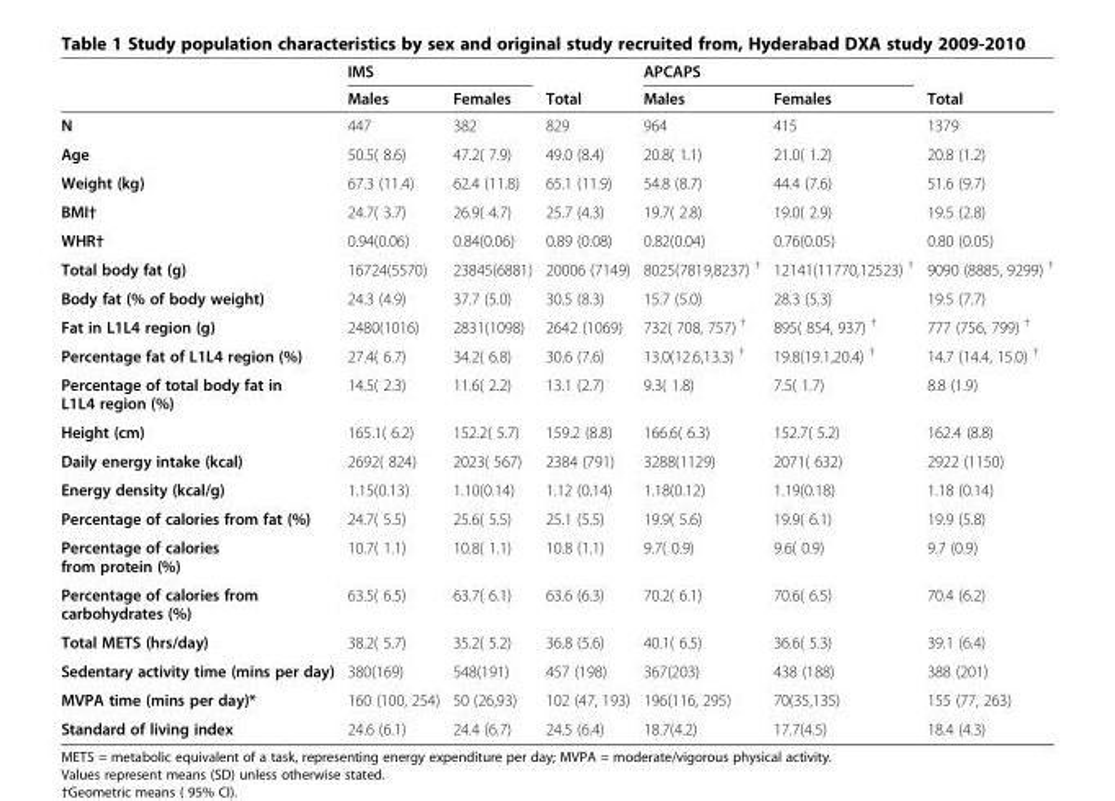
<table><thead><tr><td rowspan="2"></td><td colspan="2">IMS</td><td rowspan="2">Total</td><td colspan="2">APCAPS</td><td rowspan="2">Total</td></tr><tr><td>Males</td><td>Females</td><td>Males</td><td>Females</td></tr></thead><tbody><tr><td>N</td><td>447</td><td>382</td><td>829</td><td>964</td><td>415</td><td>1379</td></tr><tr><td>Age</td><td>50.5( 8.6)</td><td>47.2( 7.9)</td><td>49.0 (8.4)</td><td>20.8( 1.1)</td><td>21.0( 1.2)</td><td>20.8 (1.2)</td></tr><tr><td>Weight (kg)</td><td>67.3 (11.4)</td><td>62.4 (11.8)</td><td>65.1 (11.9)</td><td>54.8 (8.7)</td><td>44.4 (7.6)</td><td>51.6 (9.7)</td></tr><tr><td>BMI†</td><td>24.7( 3.7)</td><td>26.9( 4.7)</td><td>25.7 (4.3)</td><td>19.7( 2.8)</td><td>19.0( 2.9)</td><td>19.5 (2.8)</td></tr><tr><td>WHR†</td><td>0.94(0.06)</td><td>0.84(0.06)</td><td>0.89 (0.08)</td><td>0.82(0.04)</td><td>0.76(0.05)</td><td>0.80 (0.05)</td></tr><tr><td>Total body fat (g)</td><td>16724(5570)</td><td>23845(6881)</td><td>20006 (7149)</td><td>8025(7819,8237) <sup>†</sup></td><td>12141(11770,12523) <sup>†</sup></td><td>9090 (8885, 9299) <sup>†</sup></td></tr><tr><td>Body fat (% of body weight)</td><td>24.3 (4.9)</td><td>37.7 (5.0)</td><td>30.5 (8.3)</td><td>15.7 (5.0)</td><td>28.3 (5.3)</td><td>19.5 (7.7)</td></tr><tr><td>Fat in L1L4 region (g)</td><td>2480(1016)</td><td>2831(1098)</td><td>2642 (1069)</td><td>732( 708, 757) <sup>†</sup></td><td>895( 854, 937) <sup>†</sup></td><td>777 (756, 799) <sup>†</sup></td></tr><tr><td>Percentage fat of L1L4 region (%)</td><td>27.4( 6.7)</td><td>34.2( 6.8)</td><td>30.6 (7.6)</td><td>13.0(12.6,13.3) <sup>†</sup></td><td>19.8(19.1,20.4) <sup>†</sup></td><td>14.7 (14.4, 15.0) <sup>†</sup></td></tr><tr><td>Percentage of total body fat in L1L4 region (%)</td><td>14.5( 2.3)</td><td>11.6( 2.2)</td><td>13.1 (2.7)</td><td>9.3( 1.8)</td><td>7.5( 1.7)</td><td>8.8 (1.9)</td></tr><tr><td>Height (cm)</td><td>165.1( 6.2)</td><td>152.2( 5.7)</td><td>159.2 (8.8)</td><td>166.6( 6.3)</td><td>152.7( 5.2)</td><td>162.4 (8.8)</td></tr><tr><td>Daily energy intake (kcal)</td><td>2692( 824)</td><td>2023( 567)</td><td>2384 (791)</td><td>3288(1129)</td><td>2071( 632)</td><td>2922 (1150)</td></tr><tr><td>Energy density (kcal/g)</td><td>1.15(0.13)</td><td>1.10(0.14)</td><td>1.12 (0.14)</td><td>1.18(0.12)</td><td>1.19(0.18)</td><td>1.18 (0.14)</td></tr><tr><td>Percentage of calories from fat (%)</td><td>24.7( 5.5)</td><td>25.6( 5.5)</td><td>25.1 (5.5)</td><td>19.9( 5.6)</td><td>19.9( 6.1)</td><td>19.9 (5.8)</td></tr><tr><td>Percentage of calories from protein (%)</td><td>10.7( 1.1)</td><td>10.8( 1.1)</td><td>10.8 (1.1)</td><td>9.7( 0.9)</td><td>9.6( 0.9)</td><td>9.7 (0.9)</td></tr><tr><td>Percentage of calories from carbohydrates (%)</td><td>63.5( 6.5)</td><td>63.7( 6.1)</td><td>63.6 (6.3)</td><td>70.2( 6.1)</td><td>70.6( 6.5)</td><td>70.4 (6.2)</td></tr><tr><td>Total METS (hrs/day)</td><td>38.2( 5.7)</td><td>35.2( 5.2)</td><td>36.8 (5.6)</td><td>40.1( 6.5)</td><td>36.6( 5.3)</td><td>39.1 (6.4)</td></tr><tr><td>Sedentary activity time (mins per day)</td><td>380(169)</td><td>548(191)</td><td>457 (198)</td><td>367(203)</td><td>438 (188)</td><td>388 (201)</td></tr><tr><td>MVPA time (mins per day)*</td><td>160 (100, 254)</td><td>50 (26,93)</td><td>102 (47, 193)</td><td>196(116, 295)</td><td>70(35,135)</td><td>155 (77, 263)</td></tr><tr><td>Standard of living index</td><td>24.6 (6.1)</td><td>24.4 (6.7)</td><td>24.5 (6.4)</td><td>18.7(4.2)</td><td>17.7(4.5)</td><td>18.4 (4.3)</td></tr></tbody></table>